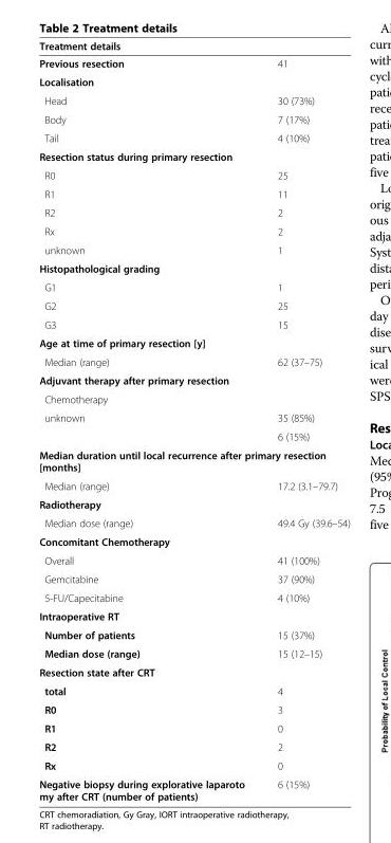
<table><thead><tr><td colspan="2">Treatment details</td></tr><tr><td>Previous resection</td><td>41</td></tr></thead><tbody><tr><td colspan="2">Localisation</td></tr><tr><td>Head</td><td>30 (73%)</td></tr><tr><td>Body</td><td>7 (17%)</td></tr><tr><td>Tail</td><td>4 (10%)</td></tr><tr><td colspan="2">Resection status during primary resection</td></tr><tr><td>R0</td><td>25</td></tr><tr><td>R1</td><td>11</td></tr><tr><td>R2</td><td>2</td></tr><tr><td>Rx</td><td>2</td></tr><tr><td>unknown</td><td>1</td></tr><tr><td colspan="2">Histopathological grading</td></tr><tr><td>G1</td><td>1</td></tr><tr><td>G2</td><td>25</td></tr><tr><td>G3</td><td>15</td></tr><tr><td colspan="2">Age at time of primary resection [y]</td></tr><tr><td>Median (range)</td><td>62 (37–75)</td></tr><tr><td colspan="2">Adjuvant therapy after primary resection</td></tr><tr><td colspan="2">Chemotherapy</td></tr><tr><td rowspan="2">unknown</td><td>35 (85%)</td></tr><tr><td>6 (15%)</td></tr><tr><td colspan="2">Median duration until local recurrence after primary resection [months]</td></tr><tr><td>Median (range)</td><td>17.2 (3.1–79.7)</td></tr><tr><td colspan="2">Radiotherapy</td></tr><tr><td>Median dose (range)</td><td>49.4 Gy (39.6–54)</td></tr><tr><td colspan="2">Concomitant Chemotherapy</td></tr><tr><td>Overall</td><td>41 (100%)</td></tr><tr><td>Gemcitabine</td><td>37 (90%)</td></tr><tr><td>5-FU/Capecitabine</td><td>4 (10%)</td></tr><tr><td colspan="2">Intraoperative RT</td></tr><tr><td>Number of patients</td><td>15 (37%)</td></tr><tr><td>Median dose (range)</td><td>15 (12–15)</td></tr><tr><td colspan="2">Resection state after CRT</td></tr><tr><td>total</td><td>4</td></tr><tr><td>R0</td><td>3</td></tr><tr><td>R1</td><td>0</td></tr><tr><td>R2</td><td>2</td></tr><tr><td>Rx</td><td>0</td></tr><tr><td>Negative biopsy during explorative laparoto my after CRT (number of patients)</td><td>6 (15%)</td></tr></tbody></table>